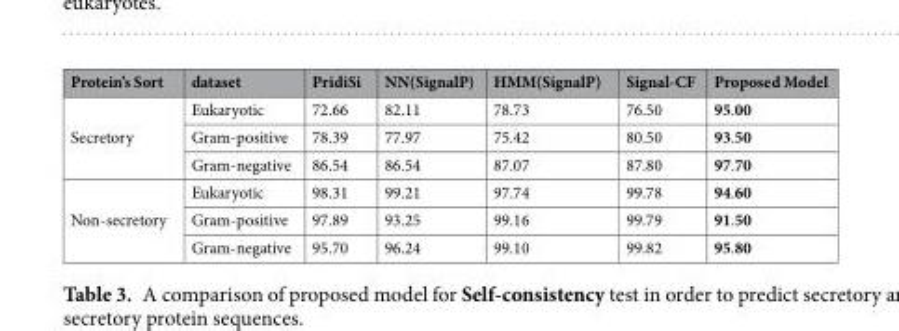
<table><thead><tr><td>Protein’s Sort</td><td>dataset</td><td>PridiSi</td><td>NN(SignalP)</td><td>HMM(SignalP)</td><td>Signal-CF</td><td>Proposed Model</td></tr></thead><tbody><tr><td rowspan="3">Secretory</td><td>Eukaryotic</td><td>72.66</td><td>82.11</td><td>78.73</td><td>76.50</td><td>95.00</td></tr><tr><td>Gram-positive</td><td>78.39</td><td>77.97</td><td>75.42</td><td>80.50</td><td>93.50</td></tr><tr><td>Gram-negative</td><td>86.54</td><td>86.54</td><td>87.07</td><td>87.80</td><td>97.70</td></tr><tr><td rowspan="3">Non-secretory</td><td>Eukaryotic</td><td>98.31</td><td>99.21</td><td>97.74</td><td>99.78</td><td>94.60</td></tr><tr><td>Gram-positive</td><td>97.89</td><td>93.25</td><td>99.16</td><td>99.79</td><td>91.50</td></tr><tr><td>Gram-negative</td><td>95.70</td><td>96.24</td><td>99.10</td><td>99.82</td><td>95.80</td></tr></tbody></table>